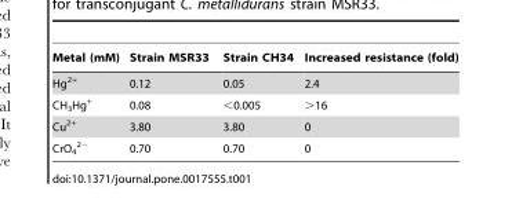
<table><thead><tr><td>Metal (mM)</td><td>Strain MSR33</td><td>Strain CH34</td><td>Increased resistance (fold)</td></tr></thead><tbody><tr><td>Hg<sup>2+</sup></td><td>0.12</td><td>0.05</td><td>2.4</td></tr><tr><td>CH<sub>3</sub>Hg<sup>+</sup></td><td>0.08</td><td>&lt;0.005</td><td>&gt;16</td></tr><tr><td>Cu<sup>2+</sup></td><td>3.80</td><td>3.80</td><td>0</td></tr><tr><td>CrO<sub>4</sub> <sup>2−</sup></td><td>0.70</td><td>0.70</td><td>0</td></tr></tbody></table>